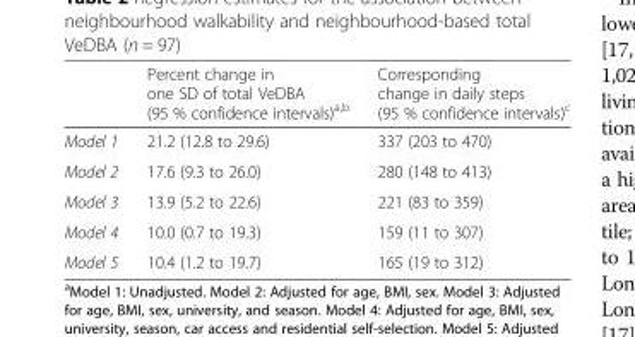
<table><thead><tr><td></td><td>Percent change in one SD of total VeDBA (95 % confidence intervals)<sup>a,b</sup></td><td>Corresponding change in daily steps (95 % confidence intervals)<sup>c</sup></td></tr></thead><tbody><tr><td>Model 1</td><td>21.2 (12.8 to 29.6)</td><td>337 (203 to 470)</td></tr><tr><td>Model 2</td><td>17.6 (9.3 to 26.0)</td><td>280 (148 to 413)</td></tr><tr><td>Model 3</td><td>13.9 (5.2 to 22.6)</td><td>221 (83 to 359)</td></tr><tr><td>Model 4</td><td>10.0 (0.7 to 19.3)</td><td>159 (11 to 307)</td></tr><tr><td>Model 5</td><td>10.4 (1.2 to 19.7)</td><td>165 (19 to 312)</td></tr></tbody></table>